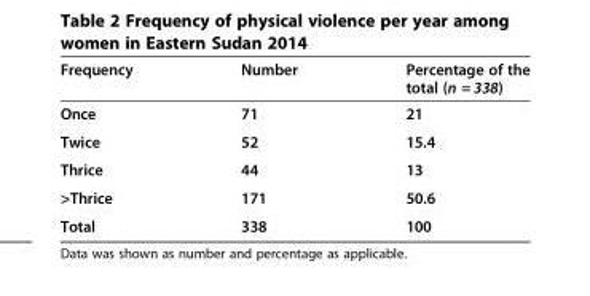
<table><thead><tr><td>Frequency</td><td>Number</td><td>Percentage of the total (n = 338)</td></tr></thead><tbody><tr><td>Once</td><td>71</td><td>21</td></tr><tr><td>Twice</td><td>52</td><td>15.4</td></tr><tr><td>Thrice</td><td>44</td><td>13</td></tr><tr><td>&gt;Thrice</td><td>171</td><td>50.6</td></tr><tr><td>Total</td><td>338</td><td>100</td></tr></tbody></table>